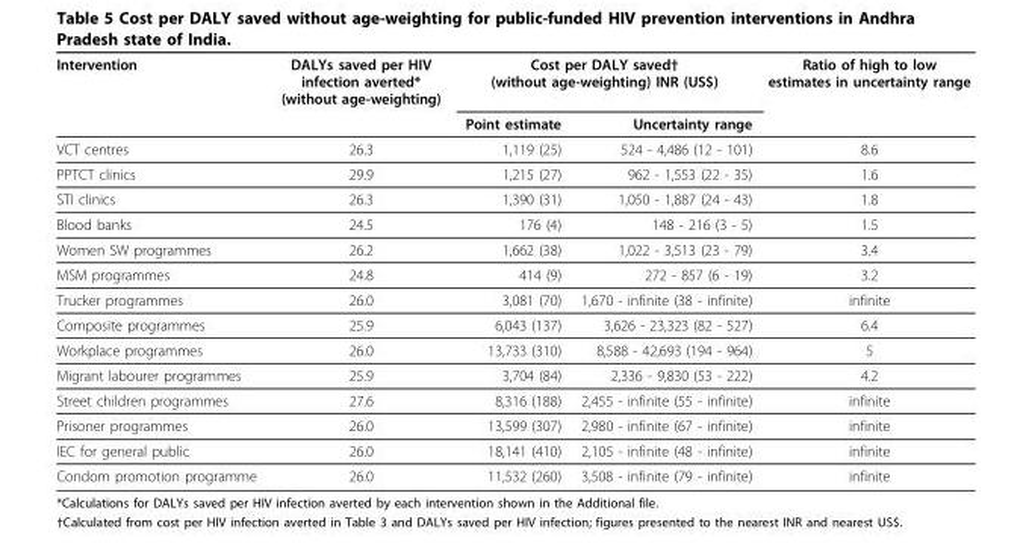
<table><thead><tr><td rowspan="2">Intervention</td><td rowspan="2">DALYs saved per HIV infection averted* (without age-weighting)</td><td colspan="2">Cost per DALY saved† (without age-weighting) INR (US$)</td><td rowspan="2">Ratio of high to low estimates in uncertainty range</td></tr><tr><td>Point estimate</td><td>Uncertainty range</td></tr></thead><tbody><tr><td>VCT centres</td><td>26.3</td><td>1,119 (25)</td><td>524 - 4,486 (12 - 101)</td><td>8.6</td></tr><tr><td>PPTCT clinics</td><td>29.9</td><td>1,215 (27)</td><td>962 - 1,553 (22 - 35)</td><td>1.6</td></tr><tr><td>STI clinics</td><td>26.3</td><td>1,390 (31)</td><td>1,050 - 1,887 (24 - 43)</td><td>1.8</td></tr><tr><td>Blood banks</td><td>24.5</td><td>176 (4)</td><td>148 - 216 (3 - 5)</td><td>1.5</td></tr><tr><td>Women SW programmes</td><td>26.2</td><td>1,662 (38)</td><td>1,022 - 3,513 (23 - 79)</td><td>3.4</td></tr><tr><td>MSM programmes</td><td>24.8</td><td>414 (9)</td><td>272 - 857 (6 - 19)</td><td>3.2</td></tr><tr><td>Trucker programmes</td><td>26.0</td><td>3,081 (70)</td><td>1,670 - infinite (38 - infinite)</td><td>infinite</td></tr><tr><td>Composite programmes</td><td>25.9</td><td>6,043 (137)</td><td>3,626 - 23,323 (82 - 527)</td><td>6.4</td></tr><tr><td>Workplace programmes</td><td>26.0</td><td>13,733 (310)</td><td>8,588 - 42,693 (194 - 964)</td><td>5</td></tr><tr><td>Migrant labourer programmes</td><td>25.9</td><td>3,704 (84)</td><td>2,336 - 9,830 (53 - 222)</td><td>4.2</td></tr><tr><td>Street children programmes</td><td>27.6</td><td>8,316 (188)</td><td>2,455 - infinite (55 - infinite)</td><td>infinite</td></tr><tr><td>Prisoner programmes</td><td>26.0</td><td>13,599 (307)</td><td>2,980 - infinite (67 - infinite)</td><td>infinite</td></tr><tr><td>IEC for general public</td><td>26.0</td><td>18,141 (410)</td><td>2,105 - infinite (48 - infinite)</td><td>infinite</td></tr><tr><td>Condom promotion programme</td><td>26.0</td><td>11,532 (260)</td><td>3,508 - infinite (79 - infinite)</td><td>infinite</td></tr></tbody></table>